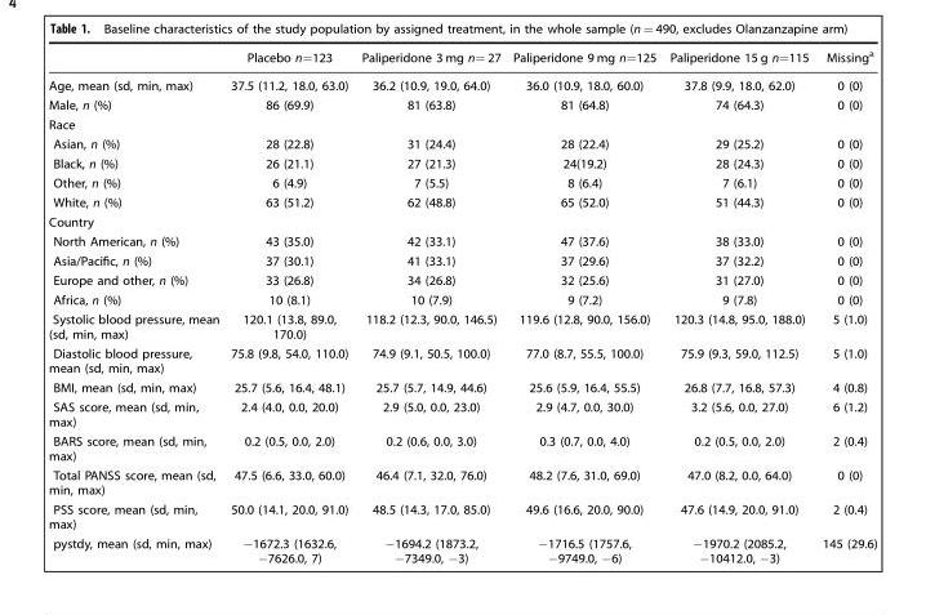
<table><thead><tr><td></td><td>Placebo n=123</td><td>Paliperidone 3 mg n= 27</td><td>Paliperidone 9 mg n=125</td><td>Paliperidone 15 g n=115</td><td>Missing<sup>a</sup></td></tr></thead><tbody><tr><td>Age, mean (sd, min, max)</td><td>37.5 (11.2, 18.0, 63.0)</td><td>36.2 (10.9, 19.0, 64.0)</td><td>36.0 (10.9, 18.0, 60.0)</td><td>37.8 (9.9, 18.0, 62.0)</td><td>0 (0)</td></tr><tr><td>Male, n (%)</td><td>86 (69.9)</td><td>81 (63.8)</td><td>81 (64.8)</td><td>74 (64.3)</td><td>0 (0)</td></tr><tr><td colspan="6">Race</td></tr><tr><td>Asian, n (%)</td><td>28 (22.8)</td><td>31 (24.4)</td><td>28 (22.4)</td><td>29 (25.2)</td><td>0 (0)</td></tr><tr><td>Black, n (%)</td><td>26 (21.1)</td><td>27 (21.3)</td><td>24(19.2)</td><td>28 (24.3)</td><td>0 (0)</td></tr><tr><td>Other, n (%)</td><td>6 (4.9)</td><td>7 (5.5)</td><td>8 (6.4)</td><td>7 (6.1)</td><td>0 (0)</td></tr><tr><td>White, n (%)</td><td>63 (51.2)</td><td>62 (48.8)</td><td>65 (52.0)</td><td>51 (44.3)</td><td>0 (0)</td></tr><tr><td colspan="6">Country</td></tr><tr><td>North American, n (%)</td><td>43 (35.0)</td><td>42 (33.1)</td><td>47 (37.6)</td><td>38 (33.0)</td><td>0 (0)</td></tr><tr><td>Asia/Pacific, n (%)</td><td>37 (30.1)</td><td>41 (33.1)</td><td>37 (29.6)</td><td>37 (32.2)</td><td>0 (0)</td></tr><tr><td>Europe and other, n (%)</td><td>33 (26.8)</td><td>34 (26.8)</td><td>32 (25.6)</td><td>31 (27.0)</td><td>0 (0)</td></tr><tr><td>Africa, n (%)</td><td>10 (8.1)</td><td>10 (7.9)</td><td>9 (7.2)</td><td>9 (7.8)</td><td>0 (0)</td></tr><tr><td>Systolic blood pressure, mean (sd, min, max)</td><td>120.1 (13.8, 89.0, 170.0)</td><td>118.2 (12.3, 90.0, 146.5)</td><td>119.6 (12.8, 90.0, 156.0)</td><td>120.3 (14.8, 95.0, 188.0)</td><td>5 (1.0)</td></tr><tr><td>Diastolic blood pressure, mean (sd, min, max)</td><td>75.8 (9.8, 54.0, 110.0)</td><td>74.9 (9.1, 50.5, 100.0)</td><td>77.0 (8.7, 55.5, 100.0)</td><td>75.9 (9.3, 59.0, 112.5)</td><td>5 (1.0)</td></tr><tr><td>BMI, mean (sd, min, max)</td><td>25.7 (5.6, 16.4, 48.1)</td><td>25.7 (5.7, 14.9, 44.6)</td><td>25.6 (5.9, 16.4, 55.5)</td><td>26.8 (7.7, 16.8, 57.3)</td><td>4 (0.8)</td></tr><tr><td>SAS score, mean (sd, min, max)</td><td>2.4 (4.0, 0.0, 20.0)</td><td>2.9 (5.0, 0.0, 23.0)</td><td>2.9 (4.7, 0.0, 30.0)</td><td>3.2 (5.6, 0.0, 27.0)</td><td>6 (1.2)</td></tr><tr><td>BARS score, mean (sd, min, max)</td><td>0.2 (0.5, 0.0, 2.0)</td><td>0.2 (0.6, 0.0, 3.0)</td><td>0.3 (0.7, 0.0, 4.0)</td><td>0.2 (0.5, 0.0, 2.0)</td><td>2 (0.4)</td></tr><tr><td>Total PANSS score, mean (sd, min, max)</td><td>47.5 (6.6, 33.0, 60.0)</td><td>46.4 (7.1, 32.0, 76.0)</td><td>48.2 (7.6, 31.0, 69.0)</td><td>47.0 (8.2, 0.0, 64.0)</td><td>0 (0)</td></tr><tr><td>PSS score, mean (sd, min, max)</td><td>50.0 (14.1, 20.0, 91.0)</td><td>48.5 (14.3, 17.0, 85.0)</td><td>49.6 (16.6, 20.0, 90.0)</td><td>47.6 (14.9, 20.0, 91.0)</td><td>2 (0.4)</td></tr><tr><td>pystdy, mean (sd, min, max)</td><td>−1672.3 (1632.6, −7626.0, 7)</td><td>−1694.2 (1873.2, −7349.0, −3)</td><td>−1716.5 (1757.6, −9749.0, −6)</td><td>−1970.2 (2085.2, −10412.0, −3)</td><td>145 (29.6)</td></tr></tbody></table>